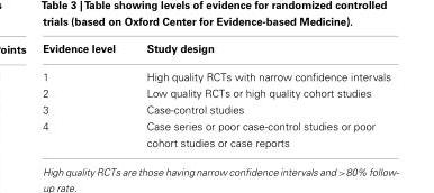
<table><thead><tr><td>Evidence level</td><td>Study design</td></tr></thead><tbody><tr><td>1</td><td>High quality RCTs with narrow confidence intervals</td></tr><tr><td>2</td><td>Low quality RCTs or high quality cohort studies</td></tr><tr><td>3</td><td>Case-control studies</td></tr><tr><td>4</td><td>Case series or poor case-control studies or poor cohort studies or case reports</td></tr></tbody></table>